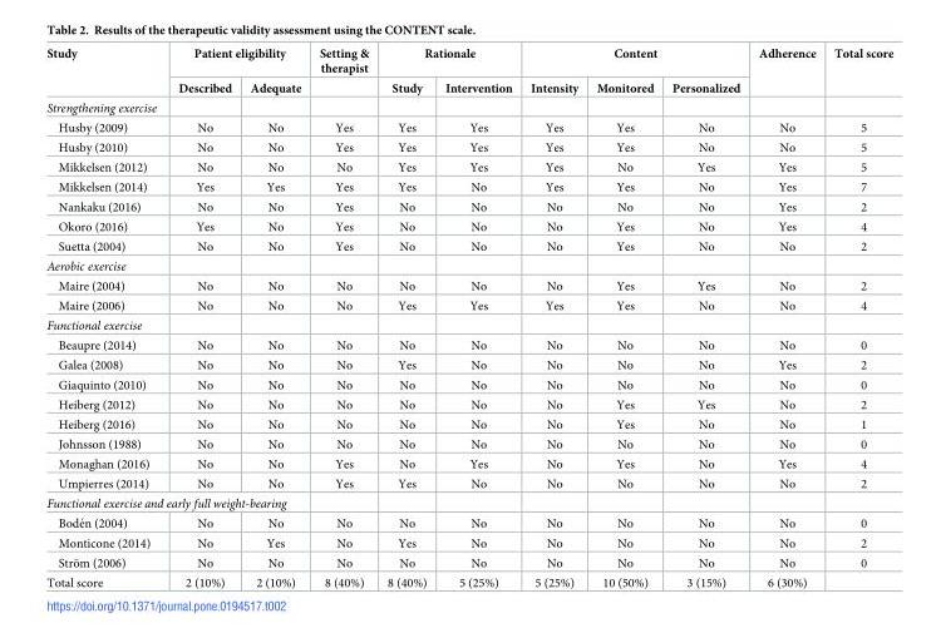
<table><thead><tr><td rowspan="2">Study</td><td colspan="2">Patient eligibility</td><td rowspan="2">Setting &amp; therapist</td><td colspan="2">Rationale</td><td colspan="3">Content</td><td rowspan="2">Adherence</td><td rowspan="2">Total score</td></tr><tr><td>Described</td><td>Adequate</td><td>Study</td><td>Intervention</td><td>Intensity</td><td>Monitored</td><td>Personalized</td></tr></thead><tbody><tr><td colspan="11">Strengthening exercise</td></tr><tr><td>Husby (2009)</td><td>No</td><td>No</td><td>Yes</td><td>Yes</td><td>Yes</td><td>Yes</td><td>Yes</td><td>No</td><td>No</td><td>5</td></tr><tr><td>Husby (2010)</td><td>No</td><td>No</td><td>Yes</td><td>Yes</td><td>Yes</td><td>Yes</td><td>Yes</td><td>No</td><td>No</td><td>5</td></tr><tr><td>Mikkelsen (2012)</td><td>No</td><td>No</td><td>No</td><td>Yes</td><td>Yes</td><td>Yes</td><td>No</td><td>Yes</td><td>Yes</td><td>5</td></tr><tr><td>Mikkelsen (2014)</td><td>Yes</td><td>Yes</td><td>Yes</td><td>Yes</td><td>No</td><td>Yes</td><td>Yes</td><td>No</td><td>Yes</td><td>7</td></tr><tr><td>Nankaku (2016)</td><td>No</td><td>No</td><td>Yes</td><td>No</td><td>No</td><td>No</td><td>No</td><td>No</td><td>Yes</td><td>2</td></tr><tr><td>Okoro (2016)</td><td>Yes</td><td>No</td><td>Yes</td><td>No</td><td>No</td><td>No</td><td>Yes</td><td>No</td><td>Yes</td><td>4</td></tr><tr><td>Suetta (2004)</td><td>No</td><td>No</td><td>Yes</td><td>No</td><td>No</td><td>No</td><td>Yes</td><td>No</td><td>No</td><td>2</td></tr><tr><td colspan="11">Aerobic exercise</td></tr><tr><td>Maire (2004)</td><td>No</td><td>No</td><td>No</td><td>No</td><td>No</td><td>No</td><td>Yes</td><td>Yes</td><td>No</td><td>2</td></tr><tr><td>Maire (2006)</td><td>No</td><td>No</td><td>No</td><td>Yes</td><td>Yes</td><td>Yes</td><td>Yes</td><td>No</td><td>No</td><td>4</td></tr><tr><td colspan="11">Functional exercise</td></tr><tr><td>Beaupre (2014)</td><td>No</td><td>No</td><td>No</td><td>No</td><td>No</td><td>No</td><td>No</td><td>No</td><td>No</td><td>0</td></tr><tr><td>Galea (2008)</td><td>No</td><td>No</td><td>No</td><td>Yes</td><td>No</td><td>No</td><td>No</td><td>No</td><td>Yes</td><td>2</td></tr><tr><td>Giaquinto (2010)</td><td>No</td><td>No</td><td>No</td><td>No</td><td>No</td><td>No</td><td>No</td><td>No</td><td>No</td><td>0</td></tr><tr><td>Heiberg (2012)</td><td>No</td><td>No</td><td>No</td><td>No</td><td>No</td><td>No</td><td>Yes</td><td>Yes</td><td>No</td><td>2</td></tr><tr><td>Heiberg (2016)</td><td>No</td><td>No</td><td>No</td><td>No</td><td>No</td><td>No</td><td>Yes</td><td>No</td><td>No</td><td>1</td></tr><tr><td>Johnsson (1988)</td><td>No</td><td>No</td><td>No</td><td>No</td><td>No</td><td>No</td><td>No</td><td>No</td><td>No</td><td>0</td></tr><tr><td>Monaghan (2016)</td><td>No</td><td>No</td><td>Yes</td><td>No</td><td>Yes</td><td>No</td><td>Yes</td><td>No</td><td>Yes</td><td>4</td></tr><tr><td>Umpierres (2014)</td><td>No</td><td>No</td><td>Yes</td><td>Yes</td><td>No</td><td>No</td><td>No</td><td>No</td><td>No</td><td>2</td></tr><tr><td colspan="11">Functional exercise and early full weight-bearing</td></tr><tr><td>Bode´n (2004)</td><td>No</td><td>No</td><td>No</td><td>No</td><td>No</td><td>No</td><td>No</td><td>No</td><td>No</td><td>0</td></tr><tr><td>Monticone (2014)</td><td>No</td><td>Yes</td><td>No</td><td>Yes</td><td>No</td><td>No</td><td>No</td><td>No</td><td>No</td><td>2</td></tr><tr><td>Stro¨m (2006)</td><td>No</td><td>No</td><td>No</td><td>No</td><td>No</td><td>No</td><td>No</td><td>No</td><td>No</td><td>0</td></tr><tr><td>Total score</td><td>2 (10%)</td><td>2 (10%)</td><td>8 (40%)</td><td>8 (40%)</td><td>5 (25%)</td><td>5 (25%)</td><td>10 (50%)</td><td>3 (15%)</td><td>6 (30%)</td><td></td></tr></tbody></table>